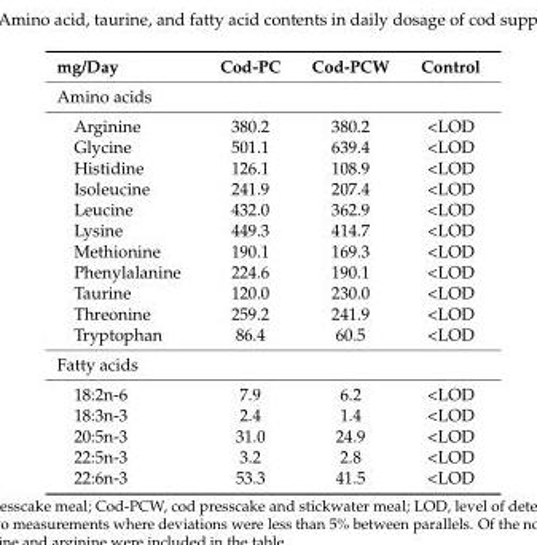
<table><thead><tr><td>mg/Day</td><td>Cod-PC</td><td>Cod-PCW</td><td>Control</td></tr></thead><tbody><tr><td colspan="4">Amino acids</td></tr><tr><td>Arginine</td><td>380.2</td><td>380.2</td><td>&lt;LOD</td></tr><tr><td>Glycine</td><td>501.1</td><td>639.4</td><td>&lt;LOD</td></tr><tr><td>Histidine</td><td>126.1</td><td>108.9</td><td>&lt;LOD</td></tr><tr><td>Isoleucine</td><td>241.9</td><td>207.4</td><td>&lt;LOD</td></tr><tr><td>Leucine</td><td>432.0</td><td>362.9</td><td>&lt;LOD</td></tr><tr><td>Lysine</td><td>449.3</td><td>414.7</td><td>&lt;LOD</td></tr><tr><td>Methionine</td><td>190.1</td><td>169.3</td><td>&lt;LOD</td></tr><tr><td>Phenylalanine</td><td>224.6</td><td>190.1</td><td>&lt;LOD</td></tr><tr><td>Taurine</td><td>120.0</td><td>230.0</td><td>&lt;LOD</td></tr><tr><td>Threonine</td><td>259.2</td><td>241.9</td><td>&lt;LOD</td></tr><tr><td>Tryptophan</td><td>86.4</td><td>60.5</td><td>&lt;LOD</td></tr><tr><td colspan="4">Fatty acids</td></tr><tr><td>18:2n-6</td><td>7.9</td><td>6.2</td><td>&lt;LOD</td></tr><tr><td>18:3n-3</td><td>2.4</td><td>1.4</td><td>&lt;LOD</td></tr><tr><td>20:5n-3</td><td>31.0</td><td>24.9</td><td>&lt;LOD</td></tr><tr><td>22:5n-3</td><td>3.2</td><td>2.8</td><td>&lt;LOD</td></tr><tr><td>22:6n-3</td><td>53.3</td><td>41.5</td><td>&lt;LOD</td></tr></tbody></table>